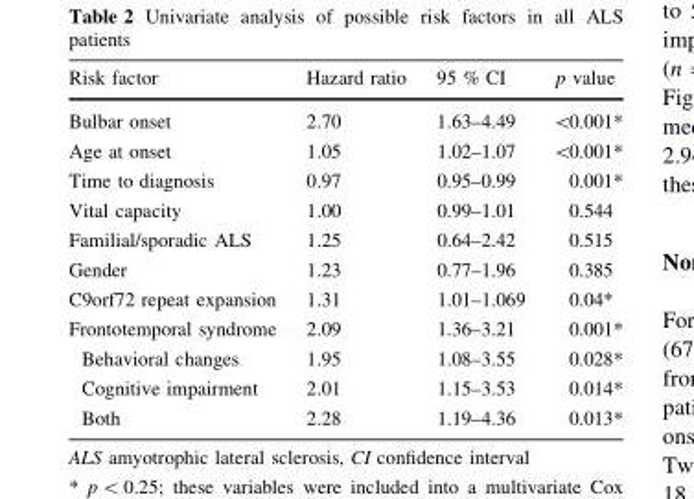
<table><thead><tr><td>Risk factor</td><td>Hazard ratio</td><td>95 % CI</td><td>p value</td></tr></thead><tbody><tr><td>Bulbar onset</td><td>2.70</td><td>1.63–4.49</td><td>&lt;0.001*</td></tr><tr><td>Age at onset</td><td>1.05</td><td>1.02–1.07</td><td>&lt;0.001*</td></tr><tr><td>Time to diagnosis</td><td>0.97</td><td>0.95–0.99</td><td>0.001*</td></tr><tr><td>Vital capacity</td><td>1.00</td><td>0.99–1.01</td><td>0.544</td></tr><tr><td>Familial/sporadic ALS</td><td>1.25</td><td>0.64–2.42</td><td>0.515</td></tr><tr><td>Gender</td><td>1.23</td><td>0.77–1.96</td><td>0.385</td></tr><tr><td>C9orf72 repeat expansion</td><td>1.31</td><td>1.01–1.069</td><td>0.04*</td></tr><tr><td>Frontotemporal syndrome</td><td>2.09</td><td>1.36–3.21</td><td>0.001*</td></tr><tr><td>Behavioral changes</td><td>1.95</td><td>1.08–3.55</td><td>0.028*</td></tr><tr><td>Cognitive impairment</td><td>2.01</td><td>1.15–3.53</td><td>0.014*</td></tr><tr><td>Both</td><td>2.28</td><td>1.19–4.36</td><td>0.013*</td></tr></tbody></table>